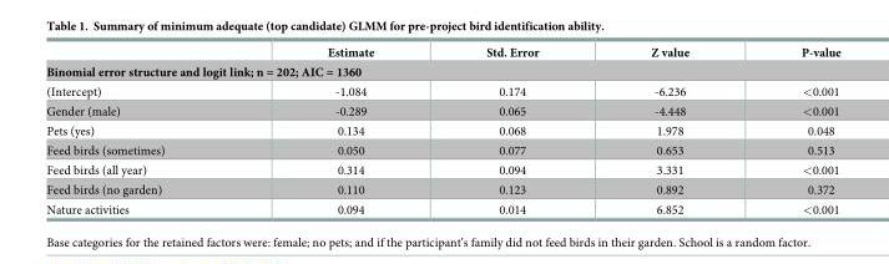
<table><thead><tr><td></td><td>Estimate</td><td>Std. Error</td><td>Z value</td><td>P-value</td></tr><tr><td colspan="5">Binomial error structure and logit link; n = 202; AIC = 1360</td></tr></thead><tbody><tr><td>(Intercept)</td><td>-1.084</td><td>0.174</td><td>-6.236</td><td>&lt;0.001</td></tr><tr><td>Gender (male)</td><td>-0.289</td><td>0.065</td><td>-4.448</td><td>&lt;0.001</td></tr><tr><td>Pets (yes)</td><td>0.134</td><td>0.068</td><td>1.978</td><td>0.048</td></tr><tr><td>Feed birds (sometimes)</td><td>0.050</td><td>0.077</td><td>0.653</td><td>0.513</td></tr><tr><td>Feed birds (all year)</td><td>0.314</td><td>0.094</td><td>3.331</td><td>&lt;0.001</td></tr><tr><td>Feed birds (no garden)</td><td>0.110</td><td>0.123</td><td>0.892</td><td>0.372</td></tr><tr><td>Nature activities</td><td>0.094</td><td>0.014</td><td>6.852</td><td>&lt;0.001</td></tr></tbody></table>